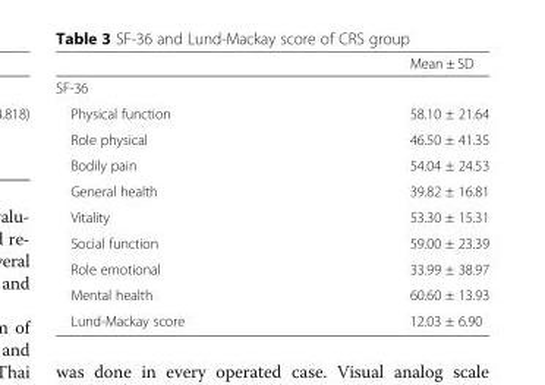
<table><thead><tr><td></td><td>Mean ± SD</td></tr></thead><tbody><tr><td colspan="2">SF-36</td></tr><tr><td>Physical function</td><td>58.10 ± 21.64</td></tr><tr><td>Role physical</td><td>46.50 ± 41.35</td></tr><tr><td>Bodily pain</td><td>54.04 ± 24.53</td></tr><tr><td>General health</td><td>39.82 ± 16.81</td></tr><tr><td>Vitality</td><td>53.30 ± 15.31</td></tr><tr><td>Social function</td><td>59.00 ± 23.39</td></tr><tr><td>Role emotional</td><td>33.99 ± 38.97</td></tr><tr><td>Mental health</td><td>60.60 ± 13.93</td></tr><tr><td>Lund-Mackay score</td><td>12.03 ± 6.90</td></tr></tbody></table>